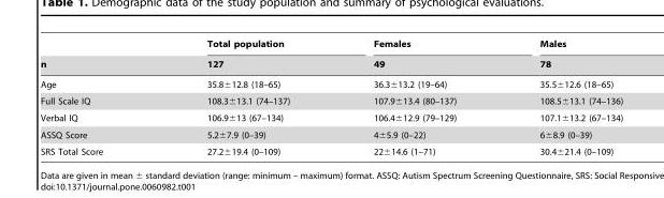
<table><thead><tr><td rowspan="2">n</td><td rowspan="2">Total population 127</td><td rowspan="2">Females 49</td><td rowspan="2">Males 78</td></tr><tr></tr></thead><tbody><tr><td>Age</td><td>35.8±12.8 (18–65)</td><td>36.3±13.2 (19–64)</td><td>35.5±12.6 (18–65)</td></tr><tr><td>Full Scale IQ</td><td>108.3±13.1 (74–137)</td><td>107.9±13.4 (80–137)</td><td>108.5±13.1 (74–136)</td></tr><tr><td>Verbal IQ</td><td>106.9±13 (67–134)</td><td>106.4±12.9 (79–129)</td><td>107.1±13.2 (67–134)</td></tr><tr><td>ASSQ Score</td><td>5.2±7.9 (0–39)</td><td>4±5.9 (0–22)</td><td>6±8.9 (0–39)</td></tr><tr><td>SRS Total Score</td><td>27.2±19.4 (0–109)</td><td>22±14.6 (1–71)</td><td>30.4±21.4 (0–109)</td></tr></tbody></table>